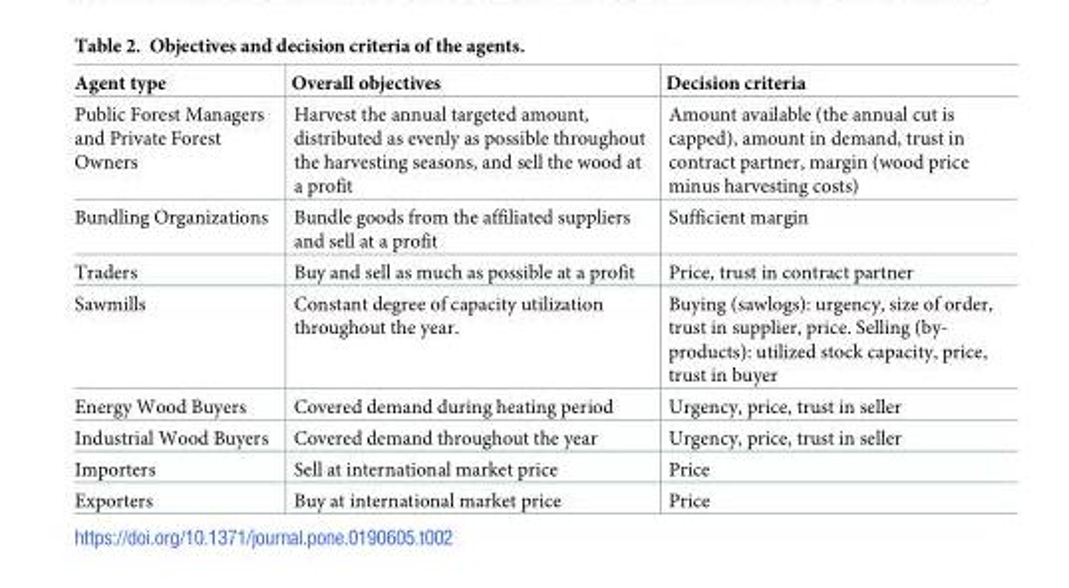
<table><thead><tr><td>Agent type</td><td>Overall objectives</td><td>Decision criteria</td></tr></thead><tbody><tr><td>Public Forest Managers and Private Forest Owners</td><td>Harvest the annual targeted amount, distributed as evenly as possible throughout the harvesting seasons, and sell the wood at a profit</td><td>Amount available (the annual cut is capped), amount in demand, trust in contract partner, margin (wood price minus harvesting costs)</td></tr><tr><td>Bundling Organizations</td><td>Bundle goods from the affiliated suppliers and sell at a profit</td><td>Sufficient margin</td></tr><tr><td>Traders</td><td>Buy and sell as much as possible at a profit</td><td>Price, trust in contract partner</td></tr><tr><td>Sawmills</td><td>Constant degree of capacity utilization throughout the year.</td><td>Buying (sawlogs): urgency, size of order, trust in supplier, price. Selling (by- products): utilized stock capacity, price, trust in buyer</td></tr><tr><td>Energy Wood Buyers</td><td>Covered demand during heating period</td><td>Urgency, price, trust in seller</td></tr><tr><td>Industrial Wood Buyers</td><td>Covered demand throughout the year</td><td>Urgency, price, trust in seller</td></tr><tr><td>Importers</td><td>Sell at international market price</td><td>Price</td></tr><tr><td>Exporters</td><td>Buy at international market price</td><td>Price</td></tr></tbody></table>